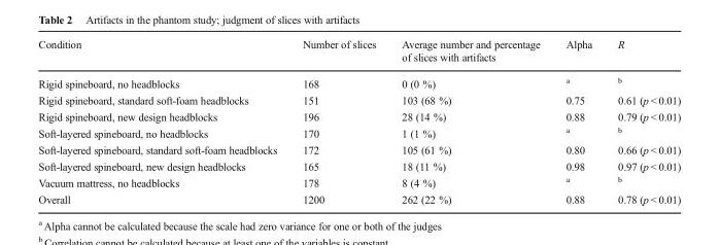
<table><thead><tr><td>Condition</td><td>Number of slices</td><td>Average number and percentage of slices with artifacts</td><td>Alpha</td><td>R</td></tr></thead><tbody><tr><td>Rigid spineboard, no headblocks</td><td>168</td><td>0 (0 %)</td><td><sup>a</sup></td><td><sup>b</sup></td></tr><tr><td>Rigid spineboard, standard soft-foam headblocks</td><td>151</td><td>103 (68 %)</td><td>0.75</td><td>0.61 (p &lt; 0.01)</td></tr><tr><td>Rigid spineboard, new design headblocks</td><td>196</td><td>28 (14 %)</td><td>0.88</td><td>0.79 (p &lt; 0.01)</td></tr><tr><td>Soft-layered spineboard, no headblocks</td><td>170</td><td>1 (1 %)</td><td><sup>a</sup></td><td><sup>b</sup></td></tr><tr><td>Soft-layered spineboard, standard soft-foam headblocks</td><td>172</td><td>105 (61 %)</td><td>0.80</td><td>0.66 (p &lt; 0.01)</td></tr><tr><td>Soft-layered spineboard, new design headblocks</td><td>165</td><td>18 (11 %)</td><td>0.98</td><td>0.97 (p &lt; 0.01)</td></tr><tr><td>Vacuum mattress, no headblocks</td><td>178</td><td>8 (4 %)</td><td><sup>a</sup></td><td><sup>b</sup></td></tr><tr><td>Overall</td><td>1200</td><td>262 (22 %)</td><td>0.88</td><td>0.78 (p &lt; 0.01)</td></tr></tbody></table>